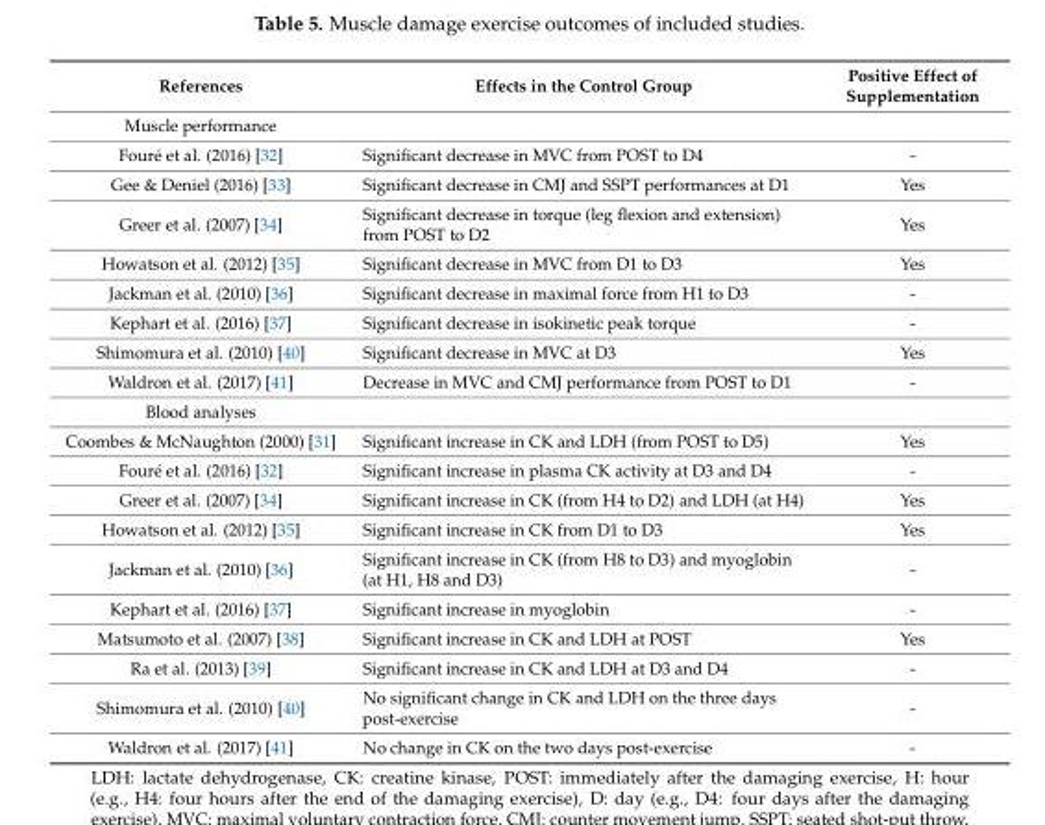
<table><thead><tr><td>References</td><td>Effects in the Control Group</td><td>Positive Effect of Supplementation</td></tr></thead><tbody><tr><td colspan="3">Muscle performance</td></tr><tr><td>Fouré et al. (2016) [32]</td><td>Significant decrease in MVC from POST to D4</td><td>-</td></tr><tr><td>Gee &amp; Deniel (2016) [33]</td><td>Significant decrease in CMJ and SSPT performances at D1</td><td>Yes</td></tr><tr><td>Greer et al. (2007) [34]</td><td>Significant decrease in torque (leg flexion and extension) from POST to D2</td><td>Yes</td></tr><tr><td>Howatson et al. (2012) [35]</td><td>Significant decrease in MVC from D1 to D3</td><td>Yes</td></tr><tr><td>Jackman et al. (2010) [36]</td><td>Significant decrease in maximal force from H1 to D3</td><td>-</td></tr><tr><td>Kephart et al. (2016) [37]</td><td>Significant decrease in isokinetic peak torque</td><td>-</td></tr><tr><td>Shimomura et al. (2010) [40]</td><td>Significant decrease in MVC at D3</td><td>Yes</td></tr><tr><td>Waldron et al. (2017) [41]</td><td>Decrease in MVC and CMJ performance from POST to D1</td><td>-</td></tr><tr><td colspan="3">Blood analyses</td></tr><tr><td>Coombes &amp; McNaughton (2000) [31]</td><td>Significant increase in CK and LDH (from POST to D5)</td><td>Yes</td></tr><tr><td>Fouré et al. (2016) [32]</td><td>Significant increase in plasma CK activity at D3 and D4</td><td>-</td></tr><tr><td>Greer et al. (2007) [34]</td><td>Significant increase in CK (from H4 to D2) and LDH (at H4)</td><td>Yes</td></tr><tr><td>Howatson et al. (2012) [35]</td><td>Significant increase in CK from D1 to D3</td><td>Yes</td></tr><tr><td>Jackman et al. (2010) [36]</td><td>Significant increase in CK (from H8 to D3) and myoglobin (at H1, H8 and D3)</td><td>-</td></tr><tr><td>Kephart et al. (2016) [37]</td><td>Significant increase in myoglobin</td><td>-</td></tr><tr><td>Matsumoto et al. (2007) [38]</td><td>Significant increase in CK and LDH at POST</td><td>Yes</td></tr><tr><td>Ra et al. (2013) [39]</td><td>Significant increase in CK and LDH at D3 and D4</td><td>-</td></tr><tr><td>Shimomura et al. (2010) [40]</td><td>No significant change in CK and LDH on the three days post-exercise</td><td>-</td></tr><tr><td>Waldron et al. (2017) [41]</td><td>No change in CK on the two days post-exercise</td><td>-</td></tr></tbody></table>